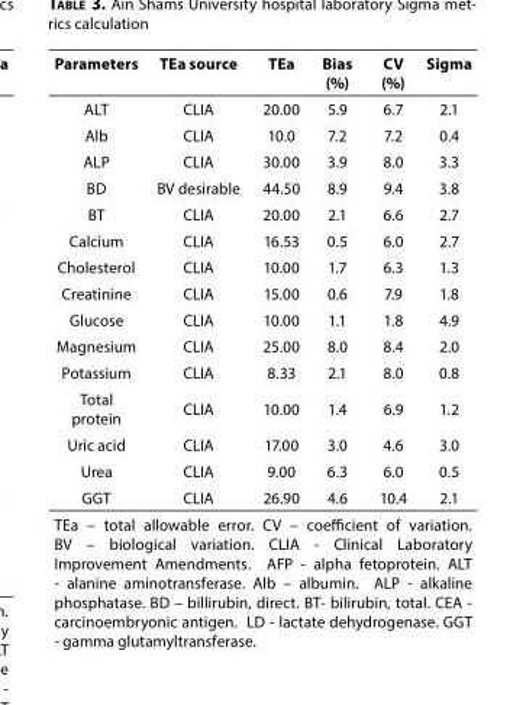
<table><thead><tr><td>Parameters</td><td>TEa source</td><td>TEa</td><td>Bias (%)</td><td>CV (%)</td><td>Sigma</td></tr></thead><tbody><tr><td>ALT</td><td>CLIA</td><td>20.00</td><td>5.9</td><td>6.7</td><td>2.1</td></tr><tr><td>Alb</td><td>CLIA</td><td>10.0</td><td>7.2</td><td>7.2</td><td>0.4</td></tr><tr><td>ALP</td><td>CLIA</td><td>30.00</td><td>3.9</td><td>8.0</td><td>3.3</td></tr><tr><td>BD</td><td>BV desirable</td><td>44.50</td><td>8.9</td><td>9.4</td><td>3.8</td></tr><tr><td>BT</td><td>CLIA</td><td>20.00</td><td>2.1</td><td>6.6</td><td>2.7</td></tr><tr><td>Calcium</td><td>CLIA</td><td>16.53</td><td>0.5</td><td>6.0</td><td>2.7</td></tr><tr><td>Cholesterol</td><td>CLIA</td><td>10.00</td><td>1.7</td><td>6.3</td><td>1.3</td></tr><tr><td>Creatinine</td><td>CLIA</td><td>15.00</td><td>0.6</td><td>7.9</td><td>1.8</td></tr><tr><td>Glucose</td><td>CLIA</td><td>10.00</td><td>1.1</td><td>1.8</td><td>4.9</td></tr><tr><td>Magnesium</td><td>CLIA</td><td>25.00</td><td>8.0</td><td>8.4</td><td>2.0</td></tr><tr><td>Potassium</td><td>CLIA</td><td>8.33</td><td>2.1</td><td>8.0</td><td>0.8</td></tr><tr><td>Total protein</td><td>CLIA</td><td>10.00</td><td>1.4</td><td>6.9</td><td>1.2</td></tr><tr><td>Uric acid</td><td>CLIA</td><td>17.00</td><td>3.0</td><td>4.6</td><td>3.0</td></tr><tr><td>Urea</td><td>CLIA</td><td>9.00</td><td>6.3</td><td>6.0</td><td>0.5</td></tr><tr><td>GGT</td><td>CLIA</td><td>26.90</td><td>4.6</td><td>10.4</td><td>2.1</td></tr><tr><td colspan="6">TEa – total allowable error. CV – coefficient of variation. BV – biological variation. CLIA - Clinical Laboratory Improvement Amendments. AFP - alpha fetoprotein. ALT - alanine aminotransferase. Alb – albumin. ALP - alkaline phosphatase. BD – billirubin, direct. BT- bilirubin, total. CEA - carcinoembryonic antigen. LD - lactate dehydrogenase. GGT - gamma glutamyltransferase.</td></tr></tbody></table>